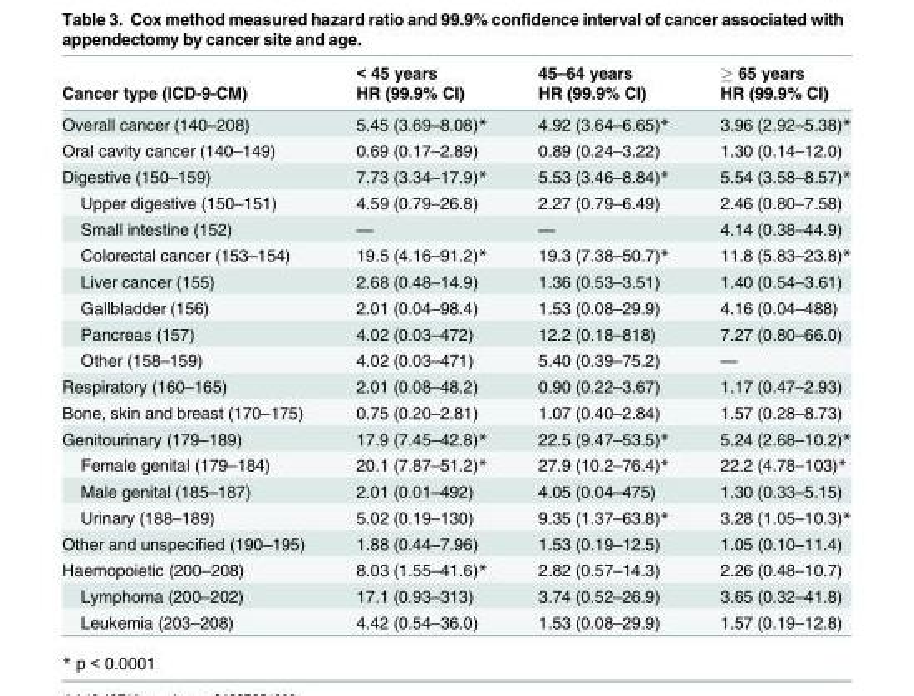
<table><thead><tr><td rowspan="2">Cancer type (ICD-9-CM)</td><td rowspan="2">&lt; 45 years HR (99.9% CI)</td><td rowspan="2">45–64 years HR (99.9% CI)</td><td rowspan="2">≥ 65 years HR (99.9% CI)</td></tr><tr></tr></thead><tbody><tr><td>Overall cancer (140–208)</td><td>5.45 (3.69–8.08)*</td><td>4.92 (3.64–6.65)*</td><td>3.96 (2.92–5.38)*</td></tr><tr><td>Oral cavity cancer (140–149)</td><td>0.69 (0.17–2.89)</td><td>0.89 (0.24–3.22)</td><td>1.30 (0.14–12.0)</td></tr><tr><td>Digestive (150–159)</td><td>7.73 (3.34–17.9)*</td><td>5.53 (3.46–8.84)*</td><td>5.54 (3.58–8.57)*</td></tr><tr><td>Upper digestive (150–151)</td><td>4.59 (0.79–26.8)</td><td>2.27 (0.79–6.49)</td><td>2.46 (0.80–7.58)</td></tr><tr><td>Small intestine (152)</td><td>—</td><td>—</td><td>4.14 (0.38–44.9)</td></tr><tr><td>Colorectal cancer (153–154)</td><td>19.5 (4.16–91.2)*</td><td>19.3 (7.38–50.7)*</td><td>11.8 (5.83–23.8)*</td></tr><tr><td>Liver cancer (155)</td><td>2.68 (0.48–14.9)</td><td>1.36 (0.53–3.51)</td><td>1.40 (0.54–3.61)</td></tr><tr><td>Gallbladder (156)</td><td>2.01 (0.04–98.4)</td><td>1.53 (0.08–29.9)</td><td>4.16 (0.04–488)</td></tr><tr><td>Pancreas (157)</td><td>4.02 (0.03–472)</td><td>12.2 (0.18–818)</td><td>7.27 (0.80–66.0)</td></tr><tr><td>Other (158–159)</td><td>4.02 (0.03–471)</td><td>5.40 (0.39–75.2)</td><td>—</td></tr><tr><td>Respiratory (160–165)</td><td>2.01 (0.08–48.2)</td><td>0.90 (0.22–3.67)</td><td>1.17 (0.47–2.93)</td></tr><tr><td>Bone, skin and breast (170–175)</td><td>0.75 (0.20–2.81)</td><td>1.07 (0.40–2.84)</td><td>1.57 (0.28–8.73)</td></tr><tr><td>Genitourinary (179–189)</td><td>17.9 (7.45–42.8)*</td><td>22.5 (9.47–53.5)*</td><td>5.24 (2.68–10.2)*</td></tr><tr><td>Female genital (179–184)</td><td>20.1 (7.87–51.2)*</td><td>27.9 (10.2–76.4)*</td><td>22.2 (4.78–103)*</td></tr><tr><td>Male genital (185–187)</td><td>2.01 (0.01–492)</td><td>4.05 (0.04–475)</td><td>1.30 (0.33–5.15)</td></tr><tr><td>Urinary (188–189)</td><td>5.02 (0.19–130)</td><td>9.35 (1.37–63.8)*</td><td>3.28 (1.05–10.3)*</td></tr><tr><td>Other and unspecified (190–195)</td><td>1.88 (0.44–7.96)</td><td>1.53 (0.19–12.5)</td><td>1.05 (0.10–11.4)</td></tr><tr><td>Haemopoietic (200–208)</td><td>8.03 (1.55–41.6)*</td><td>2.82 (0.57–14.3)</td><td>2.26 (0.48–10.7)</td></tr><tr><td>Lymphoma (200–202)</td><td>17.1 (0.93–313)</td><td>3.74 (0.52–26.9)</td><td>3.65 (0.32–41.8)</td></tr><tr><td>Leukemia (203–208)</td><td>4.42 (0.54–36.0)</td><td>1.53 (0.08–29.9)</td><td>1.57 (0.19–12.8)</td></tr></tbody></table>